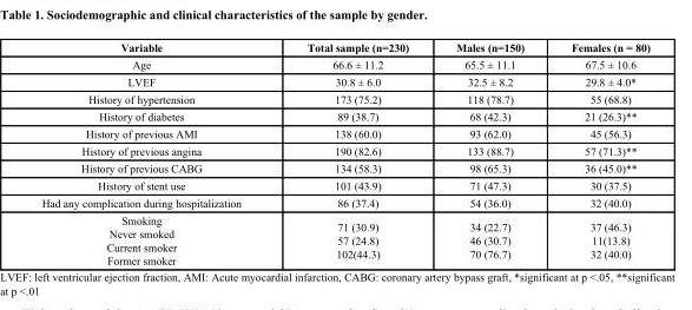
<table><thead><tr><td>Variable</td><td>Total sample (n=230)</td><td>Males (n=150)</td><td>Females (n = 80)</td></tr></thead><tbody><tr><td>Age</td><td>66.6 ± 11.2</td><td>65.5 ± 11.1</td><td>67.5 ± 10.6</td></tr><tr><td>LVEF</td><td>30.8 ± 6.0</td><td>32.5 ± 8.2</td><td>29.8 ± 4.0*</td></tr><tr><td>History of hypertension</td><td>173 (75.2)</td><td>118 (78.7)</td><td>55 (68.8)</td></tr><tr><td>History of diabetes</td><td>89 (38.7)</td><td>68 (42.3)</td><td>21 (26.3)**</td></tr><tr><td>History of previous AMI</td><td>138 (60.0)</td><td>93 (62.0)</td><td>45 (56.3)</td></tr><tr><td>History of previous angina</td><td>190 (82.6)</td><td>133 (88.7)</td><td>57 (71.3)**</td></tr><tr><td>History of previous CABG</td><td>134 (58.3)</td><td>98 (65.3)</td><td>36 (45.0)**</td></tr><tr><td>History of stent use</td><td>101 (43.9)</td><td>71 (47.3)</td><td>30 (37.5)</td></tr><tr><td>Had any complication during hospitalization</td><td>86 (37.4)</td><td>54 (36.0)</td><td>32 (40.0)</td></tr><tr><td>Smoking Never smoked Current smoker Former smoker</td><td>71 (30.9) 57 (24.8) 102(44.3)</td><td>34 (22.7) 46 (30.7) 70 (76.7)</td><td>37 (46.3) 11(13.8) 32 (40.0)</td></tr></tbody></table>